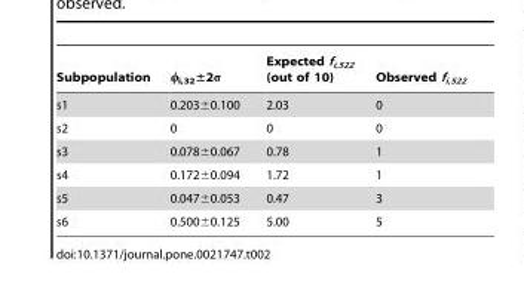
<table><thead><tr><td>Subpopulation</td><td>φ<sub>i,32</sub>±2σ</td><td>Expected f<sub>i,522</sub> (out of 10)</td><td>Observed f<sub>i,522</sub></td></tr></thead><tbody><tr><td>s1</td><td>0.203±0.100</td><td>2.03</td><td>0</td></tr><tr><td>s2</td><td>0</td><td>0</td><td>0</td></tr><tr><td>s3</td><td>0.078±0.067</td><td>0.78</td><td>1</td></tr><tr><td>s4</td><td>0.172±0.094</td><td>1.72</td><td>1</td></tr><tr><td>s5</td><td>0.047±0.053</td><td>0.47</td><td>3</td></tr><tr><td>s6</td><td>0.500±0.125</td><td>5.00</td><td>5</td></tr></tbody></table>